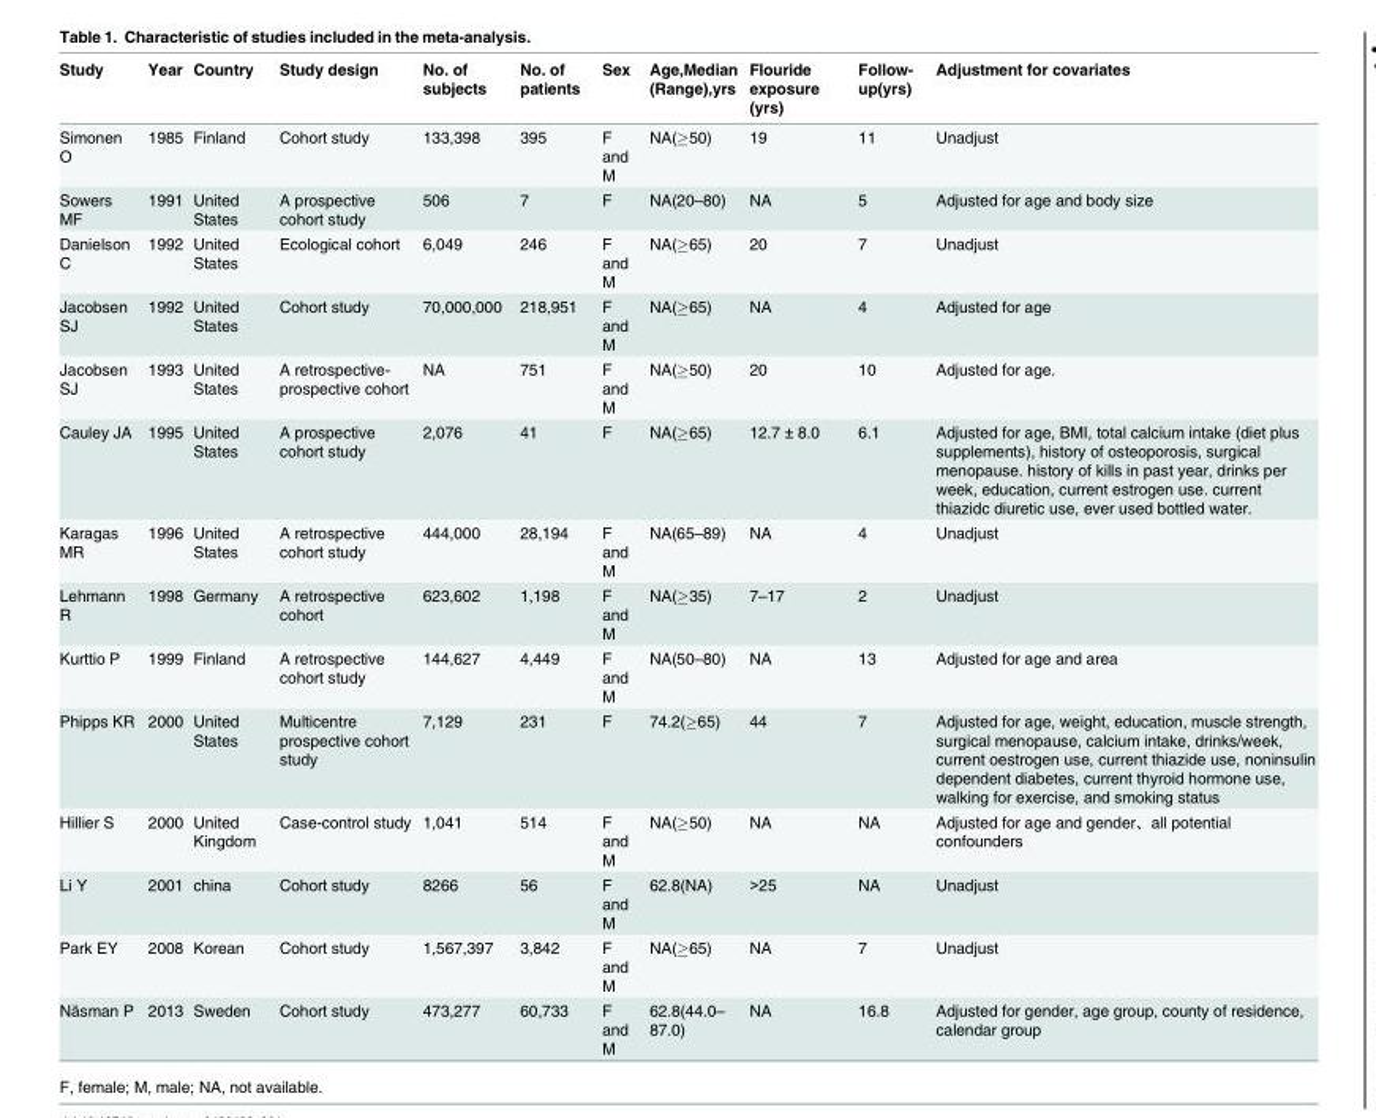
<table><thead><tr><td>Study</td><td>Year</td><td>Country</td><td>Study design</td><td>No. of subjects</td><td>No. of patients</td><td>Sex</td><td>Age,Median (Range),yrs</td><td>Flouride exposure (yrs)</td><td>Follow- up(yrs)</td><td>Adjustment for covariates</td></tr></thead><tbody><tr><td>Simonen O</td><td>1985</td><td>Finland</td><td>Cohort study</td><td>133,398</td><td>395</td><td>F and M</td><td>NA(≥50)</td><td>19</td><td>11</td><td>Unadjust</td></tr><tr><td>Sowers MF</td><td>1991</td><td>United States</td><td>A prospective cohort study</td><td>506</td><td>7</td><td>F</td><td>NA(20–80)</td><td>NA</td><td>5</td><td>Adjusted for age and body size</td></tr><tr><td>Danielson C</td><td>1992</td><td>United States</td><td>Ecological cohort</td><td>6,049</td><td>246</td><td>F and M</td><td>NA(≥65)</td><td>20</td><td>7</td><td>Unadjust</td></tr><tr><td>Jacobsen SJ</td><td>1992</td><td>United States</td><td>Cohort study</td><td>70,000,000</td><td>218,951</td><td>F and M</td><td>NA(≥65)</td><td>NA</td><td>4</td><td>Adjusted for age</td></tr><tr><td>Jacobsen SJ</td><td>1993</td><td>United States</td><td>A retrospective- prospective cohort</td><td>NA</td><td>751</td><td>F and M</td><td>NA(≥50)</td><td>20</td><td>10</td><td>Adjusted for age.</td></tr><tr><td>Cauley JA</td><td>1995</td><td>United States</td><td>A prospective cohort study</td><td>2,076</td><td>41</td><td>F</td><td>NA(≥65)</td><td>12.7 ± 8.0</td><td>6.1</td><td>Adjusted for age, BMI, total calcium intake (diet plus supplements), history of osteoporosis, surgical menopause. history of kills in past year, drinks per week, education, current estrogen use. current thiazidc diuretic use, ever used bottled water.</td></tr><tr><td>Karagas MR</td><td>1996</td><td>United States</td><td>A retrospective cohort study</td><td>444,000</td><td>28,194</td><td>F and M</td><td>NA(65–89)</td><td>NA</td><td>4</td><td>Unadjust</td></tr><tr><td>Lehmann R</td><td>1998</td><td>Germany</td><td>A retrospective cohort</td><td>623,602</td><td>1,198</td><td>F and M</td><td>NA(≥35)</td><td>7–17</td><td>2</td><td>Unadjust</td></tr><tr><td>Kurttio P</td><td>1999</td><td>Finland</td><td>A retrospective cohort study</td><td>144,627</td><td>4,449</td><td>F and M</td><td>NA(50–80)</td><td>NA</td><td>13</td><td>Adjusted for age and area</td></tr><tr><td>Phipps KR</td><td>2000</td><td>United States</td><td>Multicentre prospective cohort study</td><td>7,129</td><td>231</td><td>F</td><td>74.2(≥65)</td><td>44</td><td>7</td><td>Adjusted for age, weight, education, muscle strength, surgical menopause, calcium intake, drinks/week, current oestrogen use, current thiazide use, noninsulin dependent diabetes, current thyroid hormone use, walking for exercise, and smoking status</td></tr><tr><td>Hillier S</td><td>2000</td><td>United Kingdom</td><td>Case-control study</td><td>1,041</td><td>514</td><td>F and M</td><td>NA(≥50)</td><td>NA</td><td>NA</td><td>Adjusted for age and gender、all potential confounders</td></tr><tr><td>Li Y</td><td>2001</td><td>china</td><td>Cohort study</td><td>8266</td><td>56</td><td>F and M</td><td>62.8(NA)</td><td>&gt;25</td><td>NA</td><td>Unadjust</td></tr><tr><td>Park EY</td><td>2008</td><td>Korean</td><td>Cohort study</td><td>1,567,397</td><td>3,842</td><td>F and M</td><td>NA(≥65)</td><td>NA</td><td>7</td><td>Unadjust</td></tr><tr><td>Näsman P</td><td>2013</td><td>Sweden</td><td>Cohort study</td><td>473,277</td><td>60,733</td><td>F and M</td><td>62.8(44.0– 87.0)</td><td>NA</td><td>16.8</td><td>Adjusted for gender, age group, county of residence, calendar group</td></tr></tbody></table>